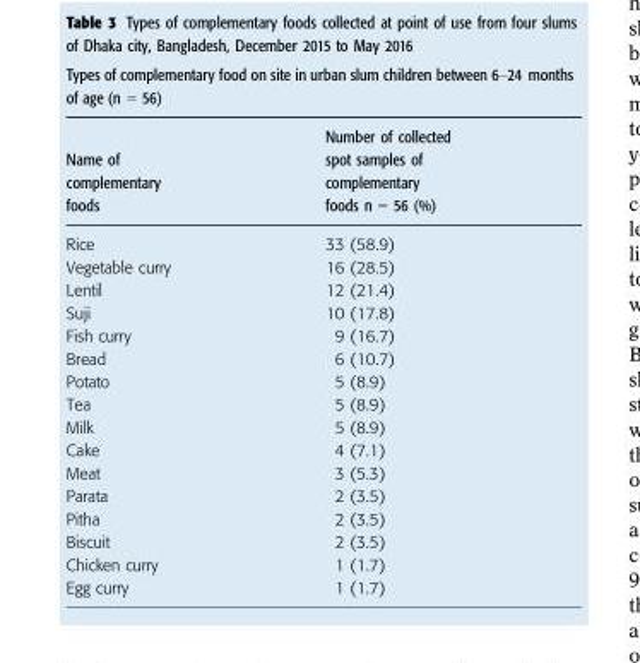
<table><thead><tr><td colspan="2">Types of complementary food on site in urban slum children between 6–24 months of age (n = 56)</td></tr><tr><td>Name of complementary foods</td><td>Number of collected spot samples of complementary foods n = 56 (%)</td></tr></thead><tbody><tr><td>Rice</td><td>33 (58.9)</td></tr><tr><td>Vegetable curry</td><td>16 (28.5)</td></tr><tr><td>Lentil</td><td>12 (21.4)</td></tr><tr><td>Suji</td><td>10 (17.8)</td></tr><tr><td>Fish curry</td><td>9 (16.7)</td></tr><tr><td>Bread</td><td>6 (10.7)</td></tr><tr><td>Potato</td><td>5 (8.9)</td></tr><tr><td>Tea</td><td>5 (8.9)</td></tr><tr><td>Milk</td><td>5 (8.9)</td></tr><tr><td>Cake</td><td>4 (7.1)</td></tr><tr><td>Meat</td><td>3 (5.3)</td></tr><tr><td>Parata</td><td>2 (3.5)</td></tr><tr><td>Pitha</td><td>2 (3.5)</td></tr><tr><td>Biscuit</td><td>2 (3.5)</td></tr><tr><td>Chicken curry</td><td>1 (1.7)</td></tr><tr><td>Egg curry</td><td>1 (1.7)</td></tr></tbody></table>